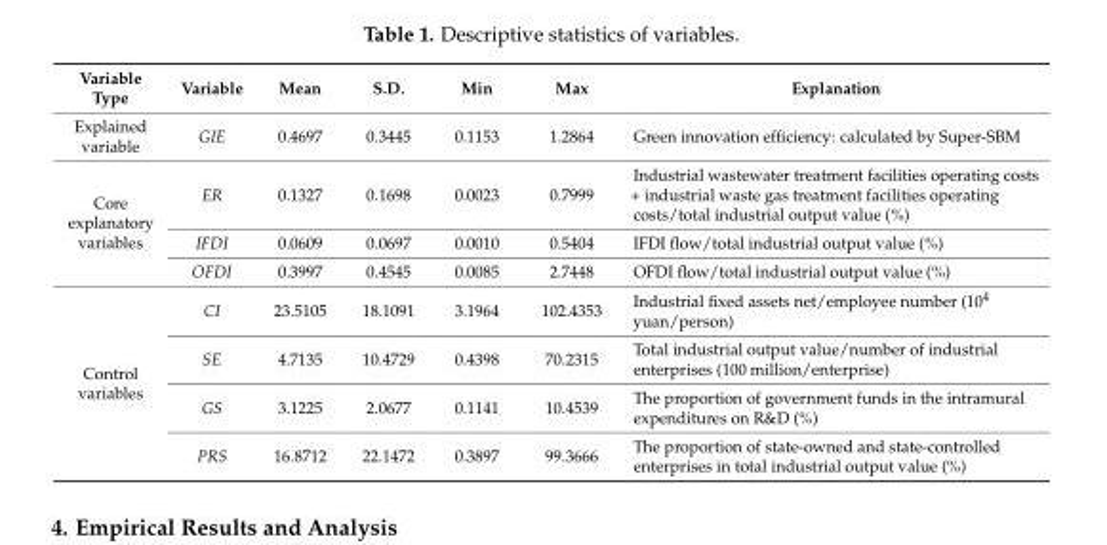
<table><thead><tr><td>Variable Type</td><td>Variable</td><td>Mean</td><td>S.D.</td><td>Min</td><td>Max</td><td>Explanation</td></tr></thead><tbody><tr><td>Explained variable</td><td>GIE</td><td>0.4697</td><td>0.3445</td><td>0.1153</td><td>1.2864</td><td>Green innovation efficiency: calculated by Super-SBM</td></tr><tr><td rowspan="3">Core explanatory variables</td><td>ER</td><td>0.1327</td><td>0.1698</td><td>0.0023</td><td>0.7999</td><td>Industrial wastewater treatment facilities operating costs + industrial waste gas treatment facilities operating costs/total industrial output value (%)</td></tr><tr><td>IFDI</td><td>0.0609</td><td>0.0697</td><td>0.0010</td><td>0.5404</td><td>IFDI flow/total industrial output value (%)</td></tr><tr><td>OFDI</td><td>0.3997</td><td>0.4545</td><td>0.0085</td><td>2.7448</td><td>OFDI flow/total industrial output value (%)</td></tr><tr><td rowspan="4">Control variables</td><td>CI</td><td>23.5105</td><td>18.1091</td><td>3.1964</td><td>102.4353</td><td>Industrial fixed assets net/employee number (10<sup>4</sup> yuan/person)</td></tr><tr><td>SE</td><td>4.7135</td><td>10.4729</td><td>0.4398</td><td>70.2315</td><td>Total industrial output value/number of industrial enterprises (100 million/enterprise)</td></tr><tr><td>GS</td><td>3.1225</td><td>2.0677</td><td>0.1141</td><td>10.4539</td><td>The proportion of government funds in the intramural expenditures on R&amp;D (%)</td></tr><tr><td>PRS</td><td>16.8712</td><td>22.1472</td><td>0.3897</td><td>99.3666</td><td>The proportion of state-owned and state-controlled enterprises in total industrial output value (%)</td></tr></tbody></table>